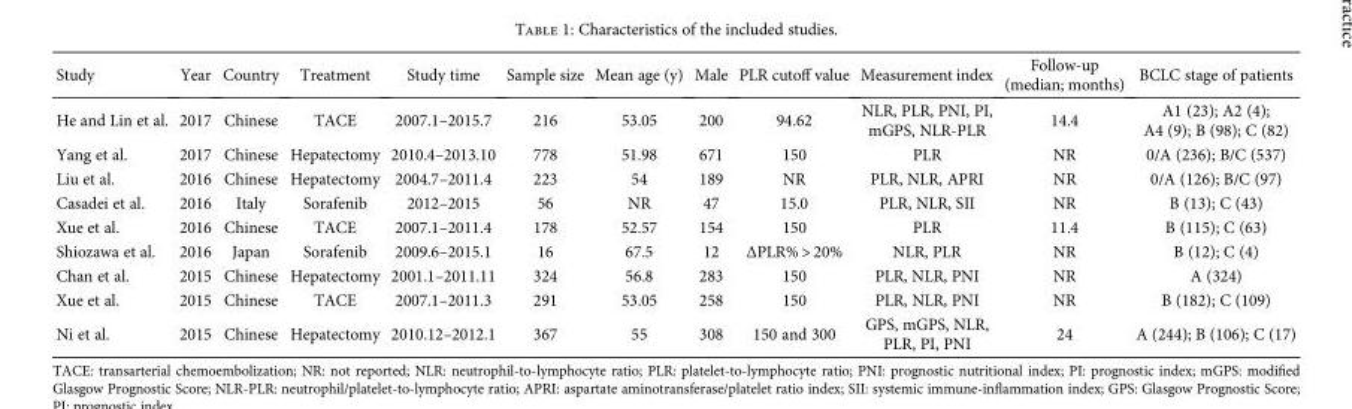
<table><thead><tr><td>Study</td><td>Year</td><td>Country</td><td>Treatment</td><td>Study time</td><td>Sample size</td><td>Mean age (y)</td><td>Male</td><td>PLR cutoff value</td><td>Measurement index</td><td>Follow-up (median; months)</td><td>BCLC stage of patients</td></tr></thead><tbody><tr><td>He and Lin et al.</td><td>2017</td><td>Chinese</td><td>TACE</td><td>2007.1–2015.7</td><td>216</td><td>53.05</td><td>200</td><td>94.62</td><td>NLR, PLR, PNI, PI, mGPS, NLR-PLR</td><td>14.4</td><td>A1 (23); A2 (4); A4 (9); B (98); C (82)</td></tr><tr><td>Yang et al.</td><td>2017</td><td>Chinese</td><td>Hepatectomy</td><td>2010.4–2013.10</td><td>778</td><td>51.98</td><td>671</td><td>150</td><td>PLR</td><td>NR</td><td>0/A (236); B/C (537)</td></tr><tr><td>Liu et al.</td><td>2016</td><td>Chinese</td><td>Hepatectomy</td><td>2004.7–2011.4</td><td>223</td><td>54</td><td>189</td><td>NR</td><td>PLR, NLR, APRI</td><td>NR</td><td>0/A (126); B/C (97)</td></tr><tr><td>Casadei et al.</td><td>2016</td><td>Italy</td><td>Sorafenib</td><td>2012–2015</td><td>56</td><td>NR</td><td>47</td><td>15.0</td><td>PLR, NLR, SII</td><td>NR</td><td>B (13); C (43)</td></tr><tr><td>Xue et al.</td><td>2016</td><td>Chinese</td><td>TACE</td><td>2007.1–2011.4</td><td>178</td><td>52.57</td><td>154</td><td>150</td><td>PLR</td><td>11.4</td><td>B (115); C (63)</td></tr><tr><td>Shiozawa et al.</td><td>2016</td><td>Japan</td><td>Sorafenib</td><td>2009.6–2015.1</td><td>16</td><td>67.5</td><td>12</td><td>ΔPLR% &gt; 20%</td><td>NLR, PLR</td><td>NR</td><td>B (12); C (4)</td></tr><tr><td>Chan et al.</td><td>2015</td><td>Chinese</td><td>Hepatectomy</td><td>2001.1–2011.11</td><td>324</td><td>56.8</td><td>283</td><td>150</td><td>PLR, NLR, PNI</td><td>NR</td><td>A (324)</td></tr><tr><td>Xue et al.</td><td>2015</td><td>Chinese</td><td>TACE</td><td>2007.1–2011.3</td><td>291</td><td>53.05</td><td>258</td><td>150</td><td>PLR, NLR, PNI</td><td>NR</td><td>B (182); C (109)</td></tr><tr><td>Ni et al.</td><td>2015</td><td>Chinese</td><td>Hepatectomy</td><td>2010.12–2012.1</td><td>367</td><td>55</td><td>308</td><td>150 and 300</td><td>GPS, mGPS, NLR, PLR, PI, PNI</td><td>24</td><td>A (244); B (106); C (17)</td></tr></tbody></table>